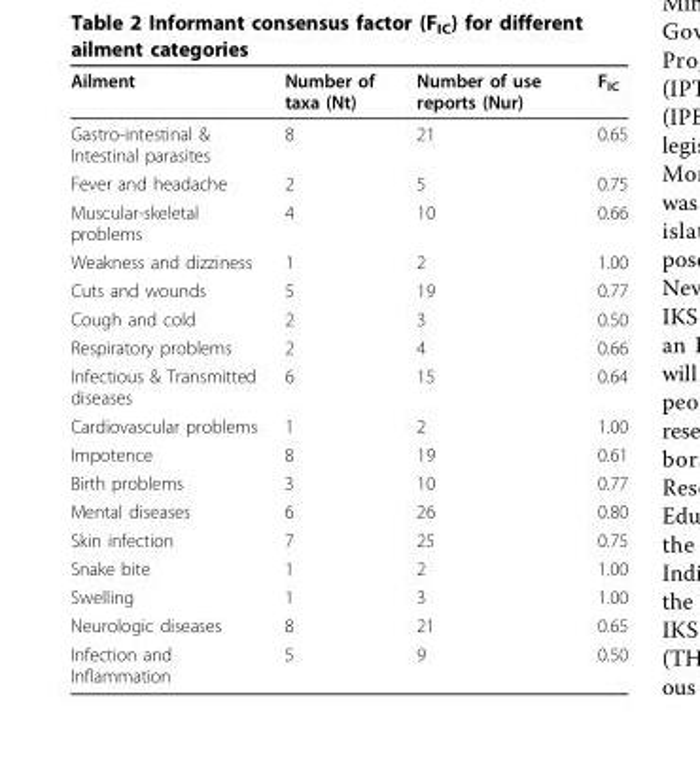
<table><thead><tr><td>Ailment</td><td>Number of taxa (Nt)</td><td>Number of use reports (Nur)</td><td>F<sub>IC</sub></td></tr></thead><tbody><tr><td>Gastro-intestinal &amp; Intestinal parasites</td><td>8</td><td>21</td><td>0.65</td></tr><tr><td>Fever and headache</td><td>2</td><td>5</td><td>0.75</td></tr><tr><td>Muscular-skeletal problems</td><td>4</td><td>10</td><td>0.66</td></tr><tr><td>Weakness and dizziness</td><td>1</td><td>2</td><td>1.00</td></tr><tr><td>Cuts and wounds</td><td>5</td><td>19</td><td>0.77</td></tr><tr><td>Cough and cold</td><td>2</td><td>3</td><td>0.50</td></tr><tr><td>Respiratory problems</td><td>2</td><td>4</td><td>0.66</td></tr><tr><td>Infectious &amp; Transmitted diseases</td><td>6</td><td>15</td><td>0.64</td></tr><tr><td>Cardiovascular problems</td><td>1</td><td>2</td><td>1.00</td></tr><tr><td>Impotence</td><td>8</td><td>19</td><td>0.61</td></tr><tr><td>Birth problems</td><td>3</td><td>10</td><td>0.77</td></tr><tr><td>Mental diseases</td><td>6</td><td>26</td><td>0.80</td></tr><tr><td>Skin infection</td><td>7</td><td>25</td><td>0.75</td></tr><tr><td>Snake bite</td><td>1</td><td>2</td><td>1.00</td></tr><tr><td>Swelling</td><td>1</td><td>3</td><td>1.00</td></tr><tr><td>Neurologic diseases</td><td>8</td><td>21</td><td>0.65</td></tr><tr><td>Infection and Inflammation</td><td>5</td><td>9</td><td>0.50</td></tr></tbody></table>